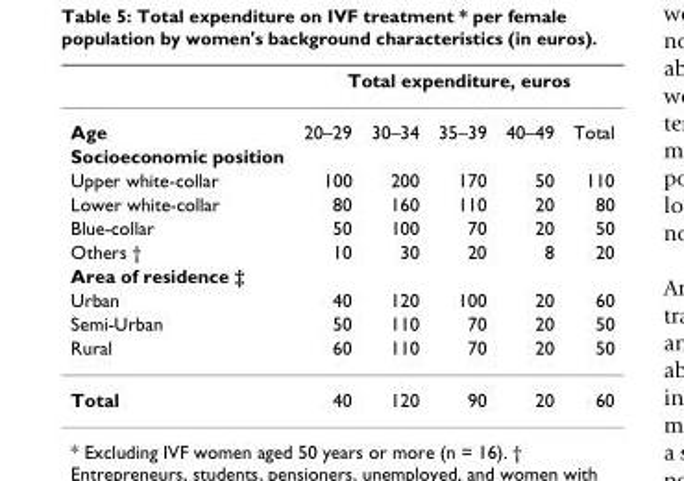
<table><thead><tr><td rowspan="2">Age</td><td colspan="5">Total expenditure, euros</td></tr><tr><td>20–29</td><td>30–34</td><td>35–39</td><td>40–49</td><td>Total</td></tr></thead><tbody><tr><td colspan="6">Socioeconomic position</td></tr><tr><td>Upper white-collar</td><td>100</td><td>200</td><td>170</td><td>50</td><td>110</td></tr><tr><td>Lower white-collar</td><td>80</td><td>160</td><td>110</td><td>20</td><td>80</td></tr><tr><td>Blue-collar</td><td>50</td><td>100</td><td>70</td><td>20</td><td>50</td></tr><tr><td>Others †</td><td>10</td><td>30</td><td>20</td><td>8</td><td>20</td></tr><tr><td colspan="6">Area of residence ‡</td></tr><tr><td>Urban</td><td>40</td><td>120</td><td>100</td><td>20</td><td>60</td></tr><tr><td>Semi-Urban</td><td>50</td><td>110</td><td>70</td><td>20</td><td>50</td></tr><tr><td>Rural</td><td>60</td><td>110</td><td>70</td><td>20</td><td>50</td></tr><tr><td>Total</td><td>40</td><td>120</td><td>90</td><td>20</td><td>60</td></tr></tbody></table>